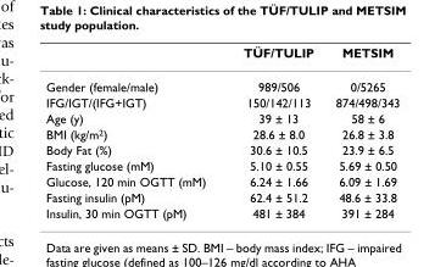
<table><thead><tr><td></td><td>TÜF/TULIP</td><td>METSIM</td></tr></thead><tbody><tr><td>Gender (female/male)</td><td>989/506</td><td>0/5265</td></tr><tr><td>IFG/IGT/(IFG+IGT)</td><td>150/142/113</td><td>874/498/343</td></tr><tr><td>Age (y)</td><td>39 ± 13</td><td>58 ± 6</td></tr><tr><td>BMI (kg/m<sup>2</sup>)</td><td>28.6 ± 8.0</td><td>26.8 ± 3.8</td></tr><tr><td>Body Fat (%)</td><td>30.6 ± 10.5</td><td>23.9 ± 6.5</td></tr><tr><td>Fasting glucose (mM)</td><td>5.10 ± 0.55</td><td>5.69 ± 0.50</td></tr><tr><td>Glucose, 120 min OGTT (mM)</td><td>6.24 ± 1.66</td><td>6.09 ± 1.69</td></tr><tr><td>Fasting insulin (pM)</td><td>62.4 ± 51.2</td><td>48.6 ± 33.8</td></tr><tr><td>Insulin, 30 min OGTT (pM)</td><td>481 ± 384</td><td>391 ± 284</td></tr></tbody></table>